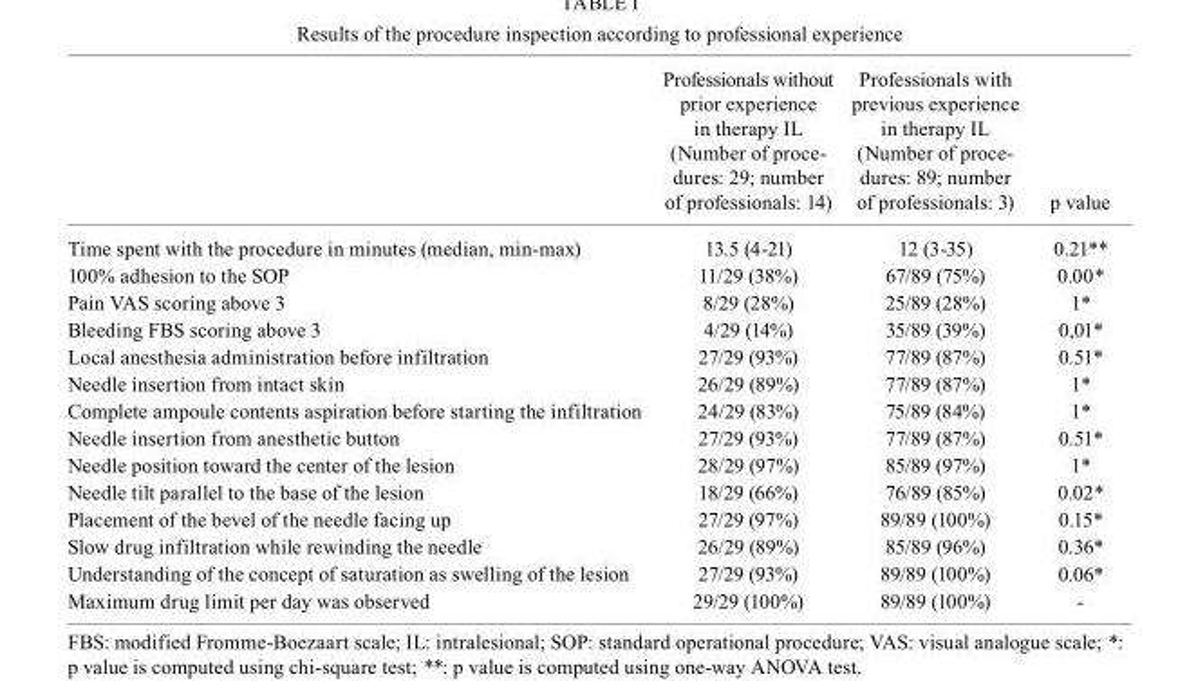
<table><thead><tr><td></td><td>Professionals without prior experience in therapy IL (Number of proce- dures: 29; number of professionals: 14)</td><td>Professionals with previous experience in therapy IL (Number of proce- dures: 89; number of professionals: 3)</td><td>p value</td></tr></thead><tbody><tr><td>Time spent with the procedure in minutes (median, min-max)</td><td>13.5 (4-21)</td><td>12 (3-35)</td><td>0.21**</td></tr><tr><td>100% adhesion to the SOP</td><td>11/29 (38%)</td><td>67/89 (75%)</td><td>0.00*</td></tr><tr><td>Pain VAS scoring above 3</td><td>8/29 (28%)</td><td>25/89 (28%)</td><td>1*</td></tr><tr><td>Bleeding FBS scoring above 3</td><td>4/29 (14%)</td><td>35/89 (39%)</td><td>0,01*</td></tr><tr><td>Local anesthesia administration before infiltration</td><td>27/29 (93%)</td><td>77/89 (87%)</td><td>0.51*</td></tr><tr><td>Needle insertion from intact skin</td><td>26/29 (89%)</td><td>77/89 (87%)</td><td>1*</td></tr><tr><td>Complete ampoule contents aspiration before starting the infiltration</td><td>24/29 (83%)</td><td>75/89 (84%)</td><td>1*</td></tr><tr><td>Needle insertion from anesthetic button</td><td>27/29 (93%)</td><td>77/89 (87%)</td><td>0.51*</td></tr><tr><td>Needle position toward the center of the lesion</td><td>28/29 (97%)</td><td>85/89 (97%)</td><td>1*</td></tr><tr><td>Needle tilt parallel to the base of the lesion</td><td>18/29 (66%)</td><td>76/89 (85%)</td><td>0.02*</td></tr><tr><td>Placement of the bevel of the needle facing up</td><td>27/29 (97%)</td><td>89/89 (100%)</td><td>0.15*</td></tr><tr><td>Slow drug infiltration while rewinding the needle</td><td>26/29 (89%)</td><td>85/89 (96%)</td><td>0.36*</td></tr><tr><td>Understanding of the concept of saturation as swelling of the lesion</td><td>27/29 (93%)</td><td>89/89 (100%)</td><td>0.06*</td></tr><tr><td>Maximum drug limit per day was observed</td><td>29/29 (100%)</td><td>89/89 (100%)</td><td>-</td></tr></tbody></table>